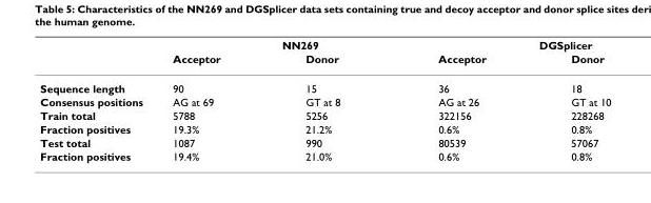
<table><thead><tr><td rowspan="2"></td><td colspan="2">NN269</td><td colspan="2">DGSplicer</td></tr><tr><td>Acceptor</td><td>Donor</td><td>Acceptor</td><td>Donor</td></tr></thead><tbody><tr><td>Sequence length</td><td>90</td><td>15</td><td>36</td><td>18</td></tr><tr><td>Consensus positions</td><td>AG at 69</td><td>GT at 8</td><td>AG at 26</td><td>GT at 10</td></tr><tr><td>Train total</td><td>5788</td><td>5256</td><td>322156</td><td>228268</td></tr><tr><td>Fraction positives</td><td>19.3%</td><td>21.2%</td><td>0.6%</td><td>0.8%</td></tr><tr><td>Test total</td><td>1087</td><td>990</td><td>80539</td><td>57067</td></tr><tr><td>Fraction positives</td><td>19.4%</td><td>21.0%</td><td>0.6%</td><td>0.8%</td></tr></tbody></table>